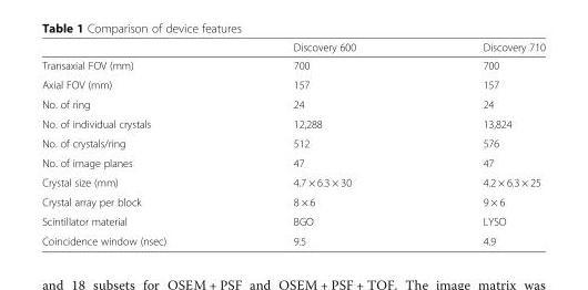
<table><thead><tr><td></td><td>Discovery 600</td><td>Discovery 710</td></tr></thead><tbody><tr><td>Transaxial FOV (mm)</td><td>700</td><td>700</td></tr><tr><td>Axial FOV (mm)</td><td>157</td><td>157</td></tr><tr><td>No. of ring</td><td>24</td><td>24</td></tr><tr><td>No. of individual crystals</td><td>12,288</td><td>13,824</td></tr><tr><td>No. of crystals/ring</td><td>512</td><td>576</td></tr><tr><td>No. of image planes</td><td>47</td><td>47</td></tr><tr><td>Crystal size (mm)</td><td>4.7 × 6.3 × 30</td><td>4.2 × 6.3 × 25</td></tr><tr><td>Crystal array per block</td><td>8 × 6</td><td>9 × 6</td></tr><tr><td>Scintillator material</td><td>BGO</td><td>LYSO</td></tr><tr><td>Coincidence window (nsec)</td><td>9.5</td><td>4.9</td></tr></tbody></table>